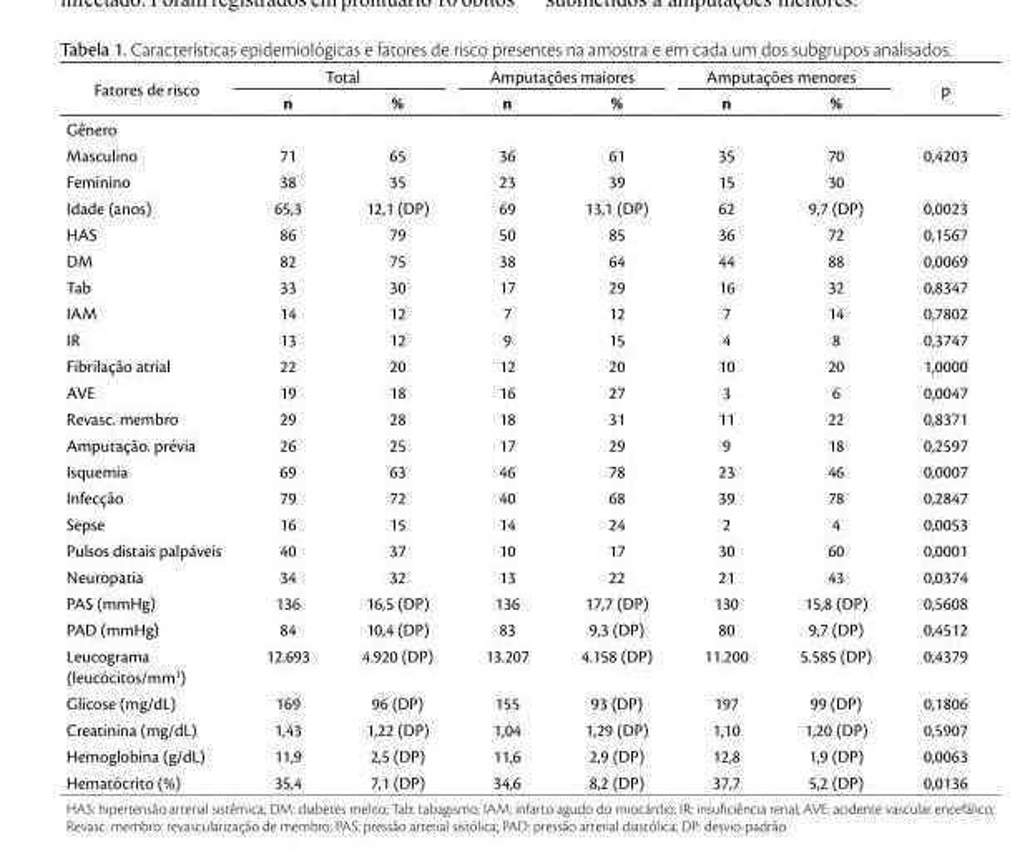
<table><thead><tr><td rowspan="2">Fatores de risco</td><td colspan="2">Total</td><td colspan="2">Amputações maiores</td><td colspan="2">Amputações menores</td><td rowspan="2">p</td></tr><tr><td>n</td><td>%</td><td>n</td><td>%</td><td>n</td><td>%</td></tr></thead><tbody><tr><td colspan="8">Gênero</td></tr><tr><td>Masculino</td><td>71</td><td>65</td><td>36</td><td>61</td><td>35</td><td>70</td><td rowspan="2">0,4203</td></tr><tr><td>Feminino</td><td>38</td><td>35</td><td>23</td><td>39</td><td>15</td><td>30</td></tr><tr><td>Idade (anos)</td><td>65,3</td><td>12,1 (DP)</td><td>69</td><td>13,1 (DP)</td><td>62</td><td>9,7 (DP)</td><td>0,0023</td></tr><tr><td>HAS</td><td>86</td><td>79</td><td>50</td><td>85</td><td>36</td><td>72</td><td>0,1567</td></tr><tr><td>DM</td><td>82</td><td>75</td><td>38</td><td>64</td><td>44</td><td>88</td><td>0,0069</td></tr><tr><td>Tab</td><td>33</td><td>30</td><td>17</td><td>29</td><td>16</td><td>32</td><td>0,8347</td></tr><tr><td>IAM</td><td>14</td><td>12</td><td>7</td><td>12</td><td>7</td><td>14</td><td>0,7802</td></tr><tr><td>IR</td><td>13</td><td>12</td><td>9</td><td>15</td><td>4</td><td>8</td><td>0,3747</td></tr><tr><td>Fibrilação atrial</td><td>22</td><td>20</td><td>12</td><td>20</td><td>10</td><td>20</td><td>1,0000</td></tr><tr><td>AVE</td><td>19</td><td>18</td><td>16</td><td>27</td><td>3</td><td>6</td><td>0,0047</td></tr><tr><td>Revasc. membro</td><td>29</td><td>28</td><td>18</td><td>31</td><td>11</td><td>22</td><td>0,8371</td></tr><tr><td>Amputação. prévia</td><td>26</td><td>25</td><td>17</td><td>29</td><td>9</td><td>18</td><td>0,2597</td></tr><tr><td>Isquemia</td><td>69</td><td>63</td><td>46</td><td>78</td><td>23</td><td>46</td><td>0,0007</td></tr><tr><td>Infecção</td><td>79</td><td>72</td><td>40</td><td>68</td><td>39</td><td>78</td><td>0,2847</td></tr><tr><td>Sepse</td><td>16</td><td>15</td><td>14</td><td>24</td><td>2</td><td>4</td><td>0,0053</td></tr><tr><td>Pulsos distais palpáveis</td><td>40</td><td>37</td><td>10</td><td>17</td><td>30</td><td>60</td><td>0,0001</td></tr><tr><td>Neuropatia</td><td>34</td><td>32</td><td>13</td><td>22</td><td>21</td><td>43</td><td>0,0374</td></tr><tr><td>PAS (mmHg)</td><td>136</td><td>16,5 (DP)</td><td>136</td><td>17,7 (DP)</td><td>130</td><td>15,8 (DP)</td><td>0,5608</td></tr><tr><td>PAD (mmHg)</td><td>84</td><td>10,4 (DP)</td><td>83</td><td>9,3 (DP)</td><td>80</td><td>9,7 (DP)</td><td>0,4512</td></tr><tr><td>Leucograma (leucócitos/mm<sup>3</sup>)</td><td>12.693</td><td>4.920 (DP)</td><td>13.207</td><td>4.158 (DP)</td><td>11.200</td><td>5.585 (DP)</td><td>0,4379</td></tr><tr><td>Glicose (mg/dL)</td><td>169</td><td>96 (DP)</td><td>155</td><td>93 (DP)</td><td>197</td><td>99 (DP)</td><td>0,1806</td></tr><tr><td>Creatinina (mg/dL)</td><td>1,43</td><td>1,22 (DP)</td><td>1,04</td><td>1,29 (DP)</td><td>1,10</td><td>1,20 (DP)</td><td>0,5907</td></tr><tr><td>Hemoglobina (g/dL)</td><td>11,9</td><td>2,5 (DP)</td><td>11,6</td><td>2,9 (DP)</td><td>12,8</td><td>1,9 (DP)</td><td>0,0063</td></tr><tr><td>Hematócrito (%)</td><td>35,4</td><td>7,1 (DP)</td><td>34,6</td><td>8,2 (DP)</td><td>37,7</td><td>5,2 (DP)</td><td>0,0136</td></tr></tbody></table>